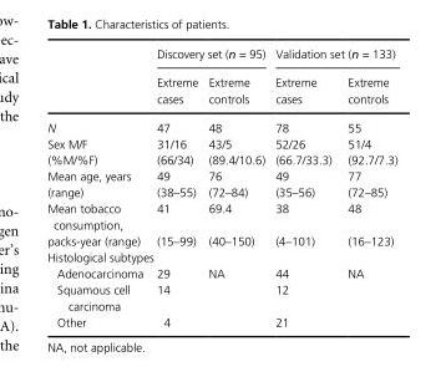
<table><thead><tr><td rowspan="2"></td><td colspan="2">Discovery set (n = 95)</td><td colspan="2">Validation set (n = 133)</td></tr><tr><td>Extreme cases</td><td>Extreme controls</td><td>Extreme cases</td><td>Extreme controls</td></tr></thead><tbody><tr><td>N</td><td>47</td><td>48</td><td>78</td><td>55</td></tr><tr><td>Sex M/F</td><td>31/16</td><td>43/5</td><td>52/26</td><td>51/4</td></tr><tr><td>(%M/%F)</td><td>(66/34)</td><td>(89.4/10.6)</td><td>(66.7/33.3)</td><td>(92.7/7.3)</td></tr><tr><td>Mean age, years</td><td>49</td><td>76</td><td>49</td><td>77</td></tr><tr><td>(range)</td><td>(38–55)</td><td>(72–84)</td><td>(35–56)</td><td>(72–85)</td></tr><tr><td>Mean tobacco consumption,</td><td>41</td><td>69.4</td><td>38</td><td>48</td></tr><tr><td>packs- year (range)</td><td>(15–99)</td><td>(40–150)</td><td>(4–101)</td><td>(16–123)</td></tr><tr><td colspan="5">Histological subtypes</td></tr><tr><td>Adenocarcinoma</td><td>29</td><td rowspan="3">NA</td><td>44</td><td rowspan="3">NA</td></tr><tr><td>Squamous cell carcinoma</td><td>14</td><td>12</td></tr><tr><td>Other</td><td>4</td><td>21</td></tr></tbody></table>